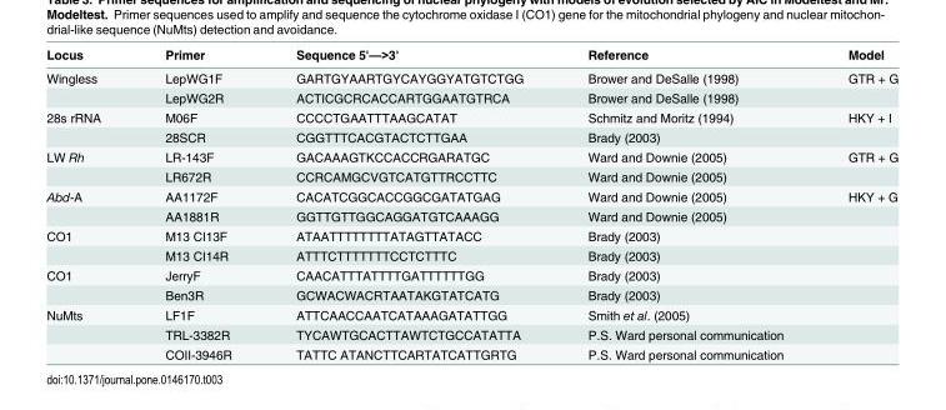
<table><thead><tr><td>Locus</td><td>Primer</td><td>Sequence 5&#x27;—&gt;3&#x27;</td><td>Reference</td><td>Model</td></tr></thead><tbody><tr><td rowspan="2">Wingless</td><td>LepWG1F</td><td>GARTGYAARTGYCAYGGYATGTCTGG</td><td>Brower and DeSalle (1998)</td><td>GTR + G</td></tr><tr><td>LepWG2R</td><td>ACTICGCRCACCARTGGAATGTRCA</td><td>Brower and DeSalle (1998)</td><td></td></tr><tr><td rowspan="2">28s rRNA</td><td>M06F</td><td>CCCCTGAATTTAAGCATAT</td><td>Schmitz and Moritz (1994)</td><td>HKY + I</td></tr><tr><td>28SCR</td><td>CGGTTTCACGTACTCTTGAA</td><td>Brady (2003)</td><td></td></tr><tr><td rowspan="2">LW Rh</td><td>LR-143F</td><td>GACAAAGTKCCACCRGARATGC</td><td>Ward and Downie (2005)</td><td>GTR + G</td></tr><tr><td>LR672R</td><td>CCRCAMGCVGTCATGTTRCCTTC</td><td>Ward and Downie (2005)</td><td></td></tr><tr><td rowspan="2">Abd-A</td><td>AA1172F</td><td>CACATCGGCACCGGCGATATGAG</td><td>Ward and Downie (2005)</td><td>HKY + G</td></tr><tr><td>AA1881R</td><td>GGTTGTTGGCAGGATGTCAAAGG</td><td>Ward and Downie (2005)</td><td></td></tr><tr><td rowspan="2">CO1</td><td>M13 CI13F</td><td>ATAATTTTTTTTATAGTTATACC</td><td>Brady (2003)</td><td></td></tr><tr><td>M13 CI14R</td><td>ATTTCTTTTTTTCCTCTTTC</td><td>Brady (2003)</td><td></td></tr><tr><td rowspan="2">CO1</td><td>JerryF</td><td>CAACATTTATTTTGATTTTTTGG</td><td>Brady (2003)</td><td></td></tr><tr><td>Ben3R</td><td>GCWACWACRTAATAKGTATCATG</td><td>Brady (2003)</td><td></td></tr><tr><td rowspan="3">NuMts</td><td>LF1F</td><td>ATTCAACCAATCATAAAGATATTGG</td><td>Smith et al. (2005)</td><td></td></tr><tr><td>TRL-3382R</td><td>TYCAWTGCACTTAWTCTGCCATATTA</td><td>P.S. Ward personal communication</td><td></td></tr><tr><td>COII-3946R</td><td>TATTC ATANCTTCARTATCATTGRTG</td><td>P.S. Ward personal communication</td><td></td></tr></tbody></table>